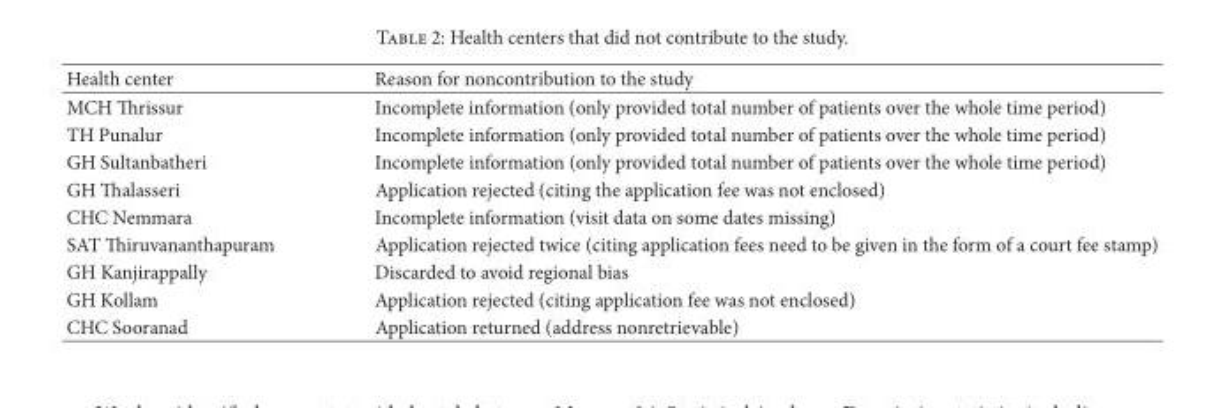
<table><thead><tr><td>Health center</td><td>Reason for noncontribution to the study</td></tr></thead><tbody><tr><td>MCH Thrissur</td><td>Incomplete information (only provided total number of patients over the whole time period)</td></tr><tr><td>TH Punalur</td><td>Incomplete information (only provided total number of patients over the whole time period)</td></tr><tr><td>GH Sultanbatheri</td><td>Incomplete information (only provided total number of patients over the whole time period)</td></tr><tr><td>GH Thalasseri</td><td>Application rejected (citing the application fee was not enclosed)</td></tr><tr><td>CHC Nemmara</td><td>Incomplete information (visit data on some dates missing)</td></tr><tr><td>SAT Thiruvananthapuram</td><td>Application rejected twice (citing application fees need to be given in the form of a court fee stamp)</td></tr><tr><td>GH Kanjirappally</td><td>Discarded to avoid regional bias</td></tr><tr><td>GH Kollam</td><td>Application rejected (citing application fee was not enclosed)</td></tr><tr><td>CHC Sooranad</td><td>Application returned (address nonretrievable)</td></tr></tbody></table>